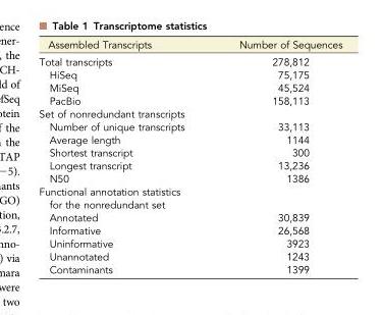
<table><thead><tr><td>Assembled Transcripts</td><td>Number of Sequences</td></tr></thead><tbody><tr><td>Total transcripts</td><td>278,812</td></tr><tr><td>HiSeq</td><td>75,175</td></tr><tr><td>MiSeq</td><td>45,524</td></tr><tr><td>PacBio</td><td>158,113</td></tr><tr><td colspan="2">Set of nonredundant transcripts</td></tr><tr><td>Number of unique transcripts</td><td>33,113</td></tr><tr><td>Average length</td><td>1144</td></tr><tr><td>Shortest transcript</td><td>300</td></tr><tr><td>Longest transcript</td><td>13,236</td></tr><tr><td>N50</td><td>1386</td></tr><tr><td colspan="2">Functional annotation statistics for the nonredundant set</td></tr><tr><td>Annotated</td><td>30,839</td></tr><tr><td>Informative</td><td>26,568</td></tr><tr><td>Uninformative</td><td>3923</td></tr><tr><td>Unannotated</td><td>1243</td></tr><tr><td>Contaminants</td><td>1399</td></tr></tbody></table>